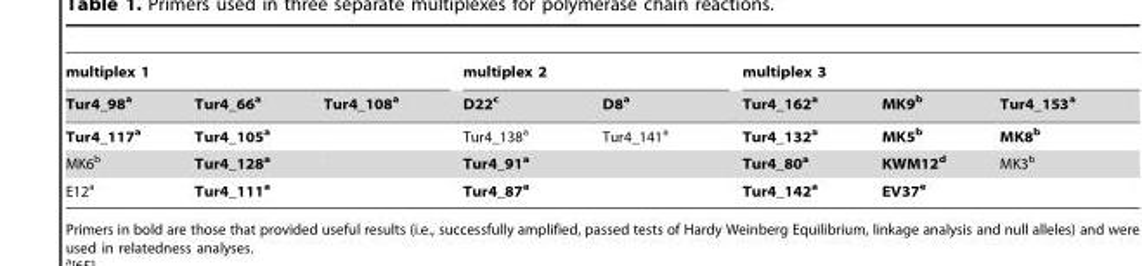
<table><thead><tr><td colspan="3">multiplex 1</td><td colspan="2">multiplex 2</td><td colspan="3">multiplex 3</td></tr><tr><td>Tur4_98<sup>a</sup></td><td>Tur4_66<sup>a</sup></td><td>Tur4_108<sup>a</sup></td><td>D22<sup>c</sup></td><td>D8<sup>a</sup></td><td>Tur4_162<sup>a</sup></td><td>MK9<sup>b</sup></td><td>Tur4_153<sup>a</sup></td></tr></thead><tbody><tr><td>Tur4_117a</td><td>Tur4_105a</td><td></td><td>Tur4_138<sup>a</sup></td><td>Tur4_141<sup>a</sup></td><td>Tur4_132a</td><td>MK5b</td><td>MK8b</td></tr><tr><td>MK6<sup>b</sup></td><td>Tur4_128a</td><td></td><td>Tur4_91a</td><td></td><td>Tur4_80a</td><td>KWM12d</td><td>MK3<sup>b</sup></td></tr><tr><td>E12<sup>a</sup></td><td>Tur4_111a</td><td></td><td>Tur4_87a</td><td></td><td>Tur4_142a</td><td>EV37e</td><td></td></tr></tbody></table>